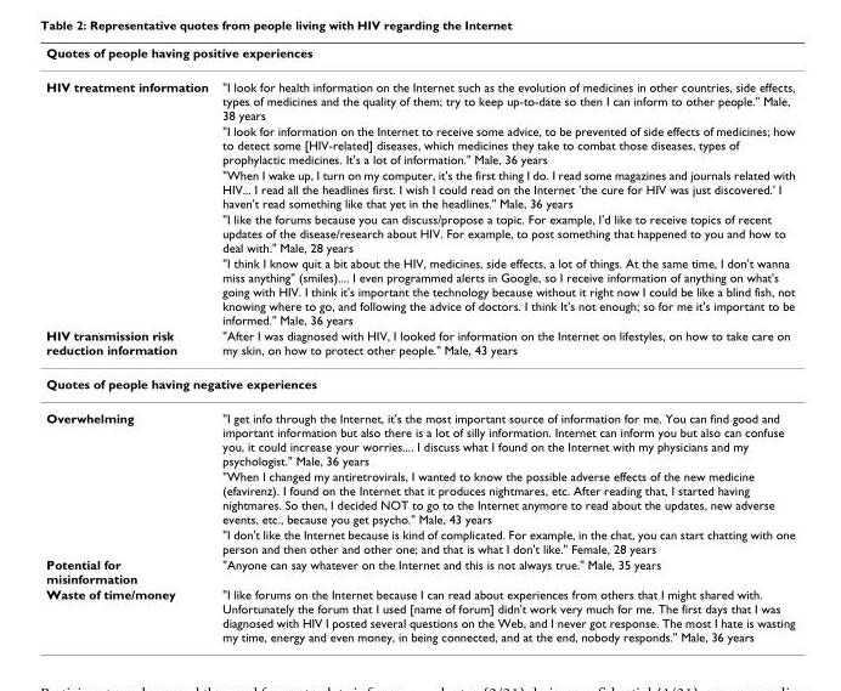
<table><thead><tr><td colspan="2">Quotes of people having positive experiences</td></tr><tr><td>HIV treatment information</td><td>&quot;I look for health information on the Internet such as the evolution of medicines in other countries, side effects, types of medicines and the quality of them; try to keep up-to-date so then I can inform to other people.&quot; Male, 38 years</td></tr></thead><tbody><tr><td></td><td>&quot;I look for information on the Internet to receive some advice, to be prevented of side effects of medicines; how to detect some [HIV-related] diseases, which medicines they take to combat those diseases, types of prophylactic medicines. It&#x27;s a lot of information.&quot; Male, 36 years</td></tr><tr><td></td><td>&quot;When I wake up, I turn on my computer, it&#x27;s the first thing I do. I read some magazines and journals related with HIV... I read all the headlines first. I wish I could read on the Internet &#x27;the cure for HIV was just discovered.&#x27; I haven&#x27;t read something like that yet in the headlines.&quot; Male, 36 years</td></tr><tr><td></td><td>&quot;I like the forums because you can discuss/propose a topic. For example, I&#x27;d like to receive topics of recent updates of the disease/research about HIV. For example, to post something that happened to you and how to deal with.&quot; Male, 28 years</td></tr><tr><td></td><td>&quot;I think I know quit a bit about the HIV, medicines, side effects, a lot of things. At the same time, I don&#x27;t wanna miss anything&quot; (smiles).... I even programmed alerts in Google, so I receive information of anything on what&#x27;s going with HIV. I think it&#x27;s important the technology because without it right now I could be like a blind fish, not knowing where to go, and following the advice of doctors. I think It&#x27;s not enough; so for me it&#x27;s important to be informed.&quot; Male, 36 years</td></tr><tr><td>HIV transmission risk reduction information</td><td>&quot;After I was diagnosed with HIV, I looked for information on the Internet on lifestyles, on how to take care on my skin, on how to protect other people.&quot; Male, 43 years</td></tr><tr><td colspan="2">Quotes of people having negative experiences</td></tr><tr><td rowspan="3">Overwhelming</td><td>&quot;I get info through the Internet, it&#x27;s the most important source of information for me. You can find good and important information but also there is a lot of silly information. Internet can inform you but also can confuse you, it could increase your worries.... I discuss what I found on the Internet with my physicians and my psychologist.&quot; Male, 36 years</td></tr><tr><td>&quot;When I changed my antiretrovirals, I wanted to know the possible adverse effects of the new medicine (efavirenz). I found on the Internet that it produces nightmares, etc. After reading that, I started having nightmares. So then, I decided NOT to go to the Internet anymore to read about the updates, new adverse events, etc., because you get psycho.&quot; Male, 43 years</td></tr><tr><td>&quot;I don&#x27;t like the Internet because is kind of complicated. For example, in the chat, you can start chatting with one person and then other and other one; and that is what I don&#x27;t like.&quot; Female, 28 years</td></tr><tr><td>Potential for misinformation</td><td>&quot;Anyone can say whatever on the Internet and this is not always true.&quot; Male, 35 years</td></tr><tr><td>Waste of time/money</td><td>&quot;I like forums on the Internet because I can read about experiences from others that I might shared with. Unfortunately the forum that I used [name of forum] didn&#x27;t work very much for me. The first days that I was diagnosed with HIV I posted several questions on the Web, and I never got response. The most I hate is wasting my time, energy and even money, in being connected, and at the end, nobody responds.&quot; Male, 36 years</td></tr></tbody></table>